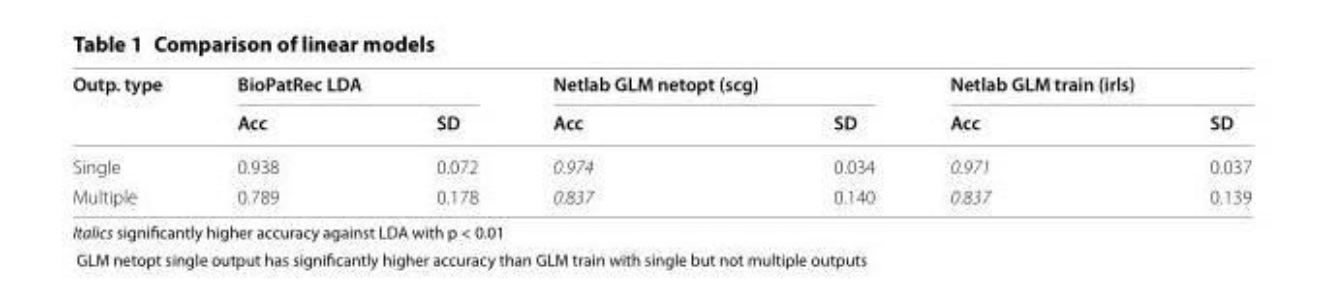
<table><thead><tr><td rowspan="2">Outp. type</td><td colspan="2">BioPatRec LDA</td><td colspan="2">Netlab GLM netopt (scg)</td><td colspan="2">Netlab GLM train (irls)</td></tr><tr><td>Acc</td><td>SD</td><td>Acc</td><td>SD</td><td>Acc</td><td>SD</td></tr></thead><tbody><tr><td>Single</td><td>0.938</td><td>0.072</td><td>0.974</td><td>0.034</td><td>0.971</td><td>0.037</td></tr><tr><td>Multiple</td><td>0.789</td><td>0.178</td><td>0.837</td><td>0.140</td><td>0.837</td><td>0.139</td></tr></tbody></table>